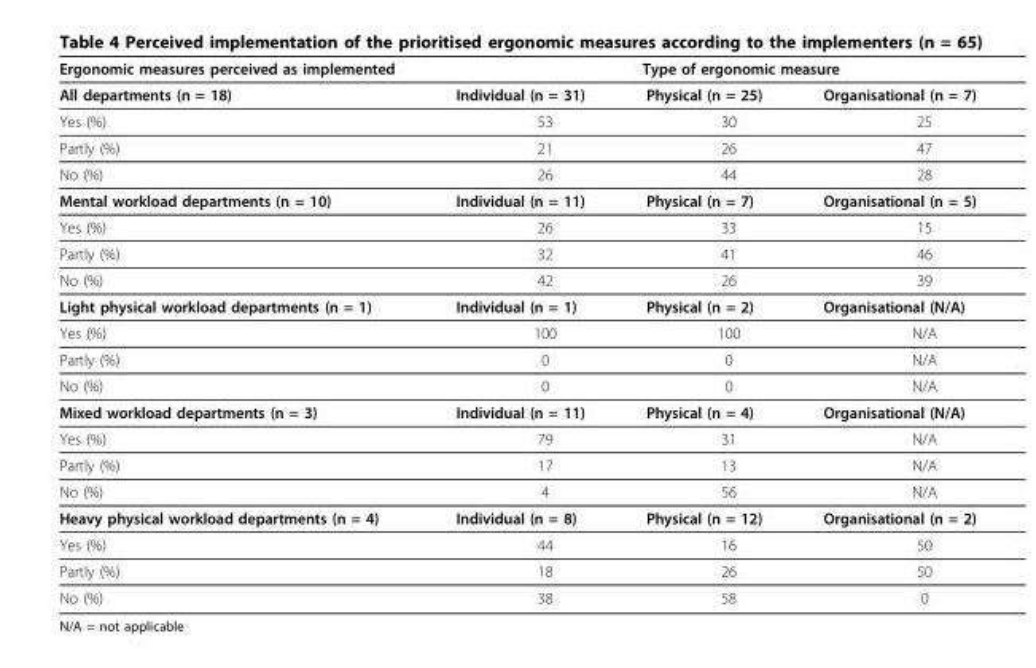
<table><thead><tr><td rowspan="2">Ergonomic measures perceived as implemented All departments (n = 18)</td><td colspan="3">Type of ergonomic measure</td></tr><tr><td>Individual (n = 31)</td><td>Physical (n = 25)</td><td>Organisational (n = 7)</td></tr></thead><tbody><tr><td>Yes (%)</td><td>53</td><td>30</td><td>25</td></tr><tr><td>Partly (%)</td><td>21</td><td>26</td><td>47</td></tr><tr><td>No (%)</td><td>26</td><td>44</td><td>28</td></tr><tr><td>Mental workload departments (n = 10)</td><td>Individual (n = 11)</td><td>Physical (n = 7)</td><td>Organisational (n = 5)</td></tr><tr><td>Yes (%)</td><td>26</td><td>33</td><td>15</td></tr><tr><td>Partly (%)</td><td>32</td><td>41</td><td>46</td></tr><tr><td>No (%)</td><td>42</td><td>26</td><td>39</td></tr><tr><td>Light physical workload departments (n = 1)</td><td>Individual (n = 1)</td><td>Physical (n = 2)</td><td>Organisational (N/A)</td></tr><tr><td>Yes (%)</td><td>100</td><td>100</td><td>N/A</td></tr><tr><td>Partly (%)</td><td>0</td><td>0</td><td>N/A</td></tr><tr><td>No (%)</td><td>0</td><td>0</td><td>N/A</td></tr><tr><td>Mixed workload departments (n = 3)</td><td>Individual (n = 11)</td><td>Physical (n = 4)</td><td>Organisational (N/A)</td></tr><tr><td>Yes (%)</td><td>79</td><td>31</td><td>N/A</td></tr><tr><td>Partly (%)</td><td>17</td><td>13</td><td>N/A</td></tr><tr><td>No (%)</td><td>4</td><td>56</td><td>N/A</td></tr><tr><td>Heavy physical workload departments (n = 4)</td><td>Individual (n = 8)</td><td>Physical (n = 12)</td><td>Organisational (n = 2)</td></tr><tr><td>Yes (%)</td><td>44</td><td>16</td><td>50</td></tr><tr><td>Partly (%)</td><td>18</td><td>26</td><td>50</td></tr><tr><td>No (%)</td><td>38</td><td>58</td><td>0</td></tr></tbody></table>